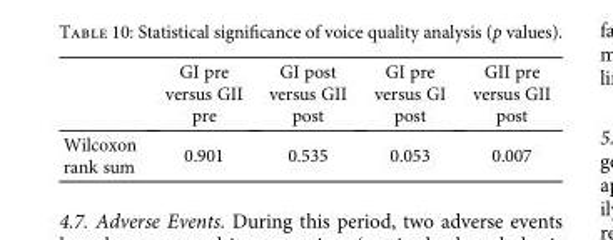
<table><thead><tr><td></td><td>GI pre versus GII pre</td><td>GI post versus GII post</td><td>GI pre versus GI post</td><td>GII pre versus GII post</td></tr></thead><tbody><tr><td>Wilcoxon rank sum</td><td>0.901</td><td>0.535</td><td>0.053</td><td>0.007</td></tr></tbody></table>